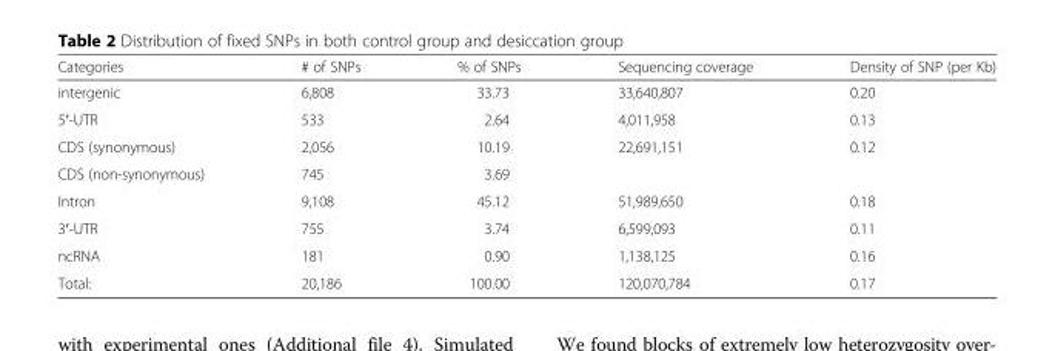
<table><thead><tr><td>Categories</td><td># of SNPs</td><td>% of SNPs</td><td>Sequencing coverage</td><td>Density of SNP (per Kb)</td></tr></thead><tbody><tr><td>intergenic</td><td>6,808</td><td>33.73</td><td>33,640,807</td><td>0.20</td></tr><tr><td>5′-UTR</td><td>533</td><td>2.64</td><td>4,011,958</td><td>0.13</td></tr><tr><td>CDS (synonymous)</td><td>2,056</td><td>10.19</td><td rowspan="2">22,691,151</td><td rowspan="2">0.12</td></tr><tr><td>CDS (non-synonymous)</td><td>745</td><td>3.69</td></tr><tr><td>Intron</td><td>9,108</td><td>45.12</td><td>51,989,650</td><td>0.18</td></tr><tr><td>3′-UTR</td><td>755</td><td>3.74</td><td>6,599,093</td><td>0.11</td></tr><tr><td>ncRNA</td><td>181</td><td>0.90</td><td>1,138,125</td><td>0.16</td></tr><tr><td>Total:</td><td>20,186</td><td>100.00</td><td>120,070,784</td><td>0.17</td></tr></tbody></table>